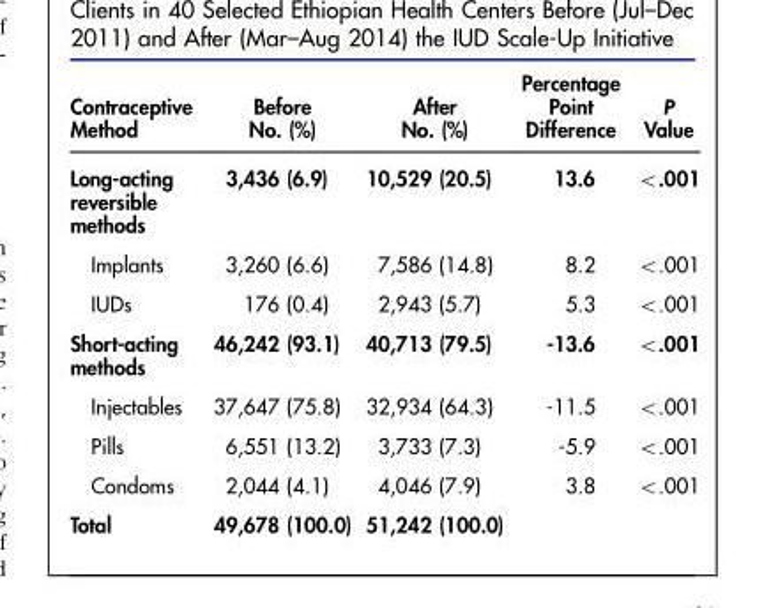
<table><thead><tr><td>Contraceptive Method</td><td>Before No. (%)</td><td>After No. (%)</td><td>Percentage Point Difference</td><td>P Value</td></tr></thead><tbody><tr><td>Long-acting reversible methods</td><td>3,436 (6.9)</td><td>10,529 (20.5)</td><td>13.6</td><td>&lt;.001</td></tr><tr><td>Implants</td><td>3,260 (6.6)</td><td>7,586 (14.8)</td><td>8.2</td><td>&lt;.001</td></tr><tr><td>IUDs</td><td>176 (0.4)</td><td>2,943 (5.7)</td><td>5.3</td><td>&lt;.001</td></tr><tr><td>Short-acting methods</td><td>46,242 (93.1)</td><td>40,713 (79.5)</td><td>-13.6</td><td>&lt;.001</td></tr><tr><td>Injectables</td><td>37,647 (75.8)</td><td>32,934 (64.3)</td><td>-11.5</td><td>&lt;.001</td></tr><tr><td>Pills</td><td>6,551 (13.2)</td><td>3,733 (7.3)</td><td>-5.9</td><td>&lt;.001</td></tr><tr><td>Condoms</td><td>2,044 (4.1)</td><td>4,046 (7.9)</td><td>3.8</td><td>&lt;.001</td></tr><tr><td>Total</td><td>49,678 (100.0)</td><td>51,242 (100.0)</td><td></td><td></td></tr></tbody></table>